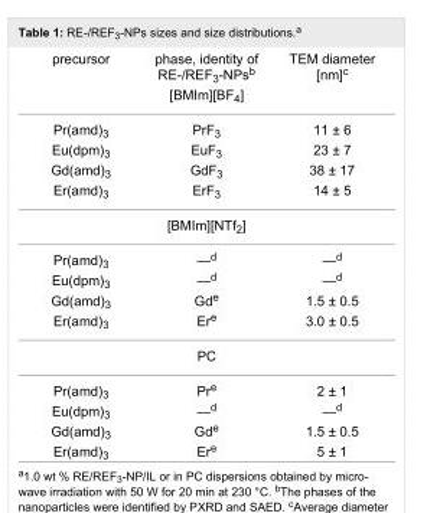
<table><tbody><tr><td>precursor</td><td>phase, identity of RE-/REF<sub>3</sub>-NPs<sup>b</sup></td><td>TEM diameter [nm]<sup>c</sup></td></tr><tr><td colspan="3">[BMIm][BF<sub>4</sub>]</td></tr><tr><td>Pr(amd)<sub>3</sub></td><td>PrF<sub>3</sub></td><td>11 ± 6</td></tr><tr><td>Eu(dpm)<sub>3</sub></td><td>EuF<sub>3</sub></td><td>23 ± 7</td></tr><tr><td>Gd(amd)<sub>3</sub></td><td>GdF<sub>3</sub></td><td>38 ± 17</td></tr><tr><td>Er(amd)<sub>3</sub></td><td>ErF<sub>3</sub></td><td>14 ± 5</td></tr><tr><td colspan="3">[BMIm][NTf<sub>2</sub>]</td></tr><tr><td>Pr(amd)<sub>3</sub></td><td>—<sup>d</sup></td><td>—<sup>d</sup></td></tr><tr><td>Eu(dpm)<sub>3</sub></td><td>—<sup>d</sup></td><td>—<sup>d</sup></td></tr><tr><td>Gd(amd)<sub>3</sub></td><td>Gd<sup>e</sup></td><td>1.5 ± 0.5</td></tr><tr><td>Er(amd)<sub>3</sub></td><td>Er<sup>e</sup></td><td>3.0 ± 0.5</td></tr><tr><td colspan="3">PC</td></tr><tr><td>Pr(amd)<sub>3</sub></td><td>Pr<sup>e</sup></td><td>2 ± 1</td></tr><tr><td>Eu(dpm)<sub>3</sub></td><td>—<sup>d</sup></td><td>—<sup>d</sup></td></tr><tr><td>Gd(amd)<sub>3</sub></td><td>Gd<sup>e</sup></td><td>1.5 ± 0.5</td></tr><tr><td>Er(amd)<sub>3</sub></td><td>Er<sup>e</sup></td><td>5 ± 1</td></tr></tbody></table>